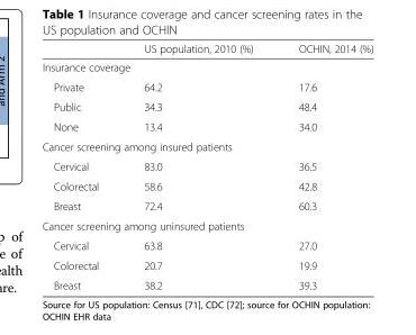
<table><thead><tr><td></td><td>US population, 2010 (%)</td><td>OCHIN, 2014 (%)</td></tr></thead><tbody><tr><td colspan="3">Insurance coverage</td></tr><tr><td>Private</td><td>64.2</td><td>17.6</td></tr><tr><td>Public</td><td>34.3</td><td>48.4</td></tr><tr><td>None</td><td>13.4</td><td>34.0</td></tr><tr><td colspan="3">Cancer screening among insured patients</td></tr><tr><td>Cervical</td><td>83.0</td><td>36.5</td></tr><tr><td>Colorectal</td><td>58.6</td><td>42.8</td></tr><tr><td>Breast</td><td>72.4</td><td>60.3</td></tr><tr><td colspan="3">Cancer screening among uninsured patients</td></tr><tr><td>Cervical</td><td>63.8</td><td>27.0</td></tr><tr><td>Colorectal</td><td>20.7</td><td>19.9</td></tr><tr><td>Breast</td><td>38.2</td><td>39.3</td></tr></tbody></table>